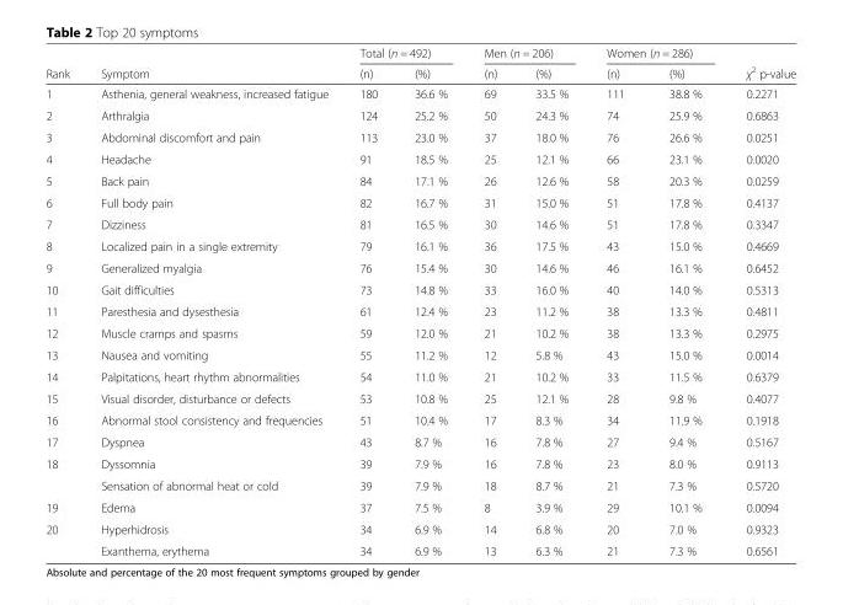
<table><thead><tr><td rowspan="2">Rank</td><td rowspan="2">Symptom</td><td colspan="2">Total (n = 492)</td><td colspan="2">Men (n = 206)</td><td colspan="2">Women (n = 286)</td><td rowspan="2">χ<sup>2</sup> p-value</td></tr><tr><td>(n)</td><td>(%)</td><td>(n)</td><td>(%)</td><td>(n)</td><td>(%)</td></tr></thead><tbody><tr><td>1</td><td>Asthenia, general weakness, increased fatigue</td><td>180</td><td>36.6 %</td><td>69</td><td>33.5 %</td><td>111</td><td>38.8 %</td><td>0.2271</td></tr><tr><td>2</td><td>Arthralgia</td><td>124</td><td>25.2 %</td><td>50</td><td>24.3 %</td><td>74</td><td>25.9 %</td><td>0.6863</td></tr><tr><td>3</td><td>Abdominal discomfort and pain</td><td>113</td><td>23.0 %</td><td>37</td><td>18.0 %</td><td>76</td><td>26.6 %</td><td>0.0251</td></tr><tr><td>4</td><td>Headache</td><td>91</td><td>18.5 %</td><td>25</td><td>12.1 %</td><td>66</td><td>23.1 %</td><td>0.0020</td></tr><tr><td>5</td><td>Back pain</td><td>84</td><td>17.1 %</td><td>26</td><td>12.6 %</td><td>58</td><td>20.3 %</td><td>0.0259</td></tr><tr><td>6</td><td>Full body pain</td><td>82</td><td>16.7 %</td><td>31</td><td>15.0 %</td><td>51</td><td>17.8 %</td><td>0.4137</td></tr><tr><td>7</td><td>Dizziness</td><td>81</td><td>16.5 %</td><td>30</td><td>14.6 %</td><td>51</td><td>17.8 %</td><td>0.3347</td></tr><tr><td>8</td><td>Localized pain in a single extremity</td><td>79</td><td>16.1 %</td><td>36</td><td>17.5 %</td><td>43</td><td>15.0 %</td><td>0.4669</td></tr><tr><td>9</td><td>Generalized myalgia</td><td>76</td><td>15.4 %</td><td>30</td><td>14.6 %</td><td>46</td><td>16.1 %</td><td>0.6452</td></tr><tr><td>10</td><td>Gait difficulties</td><td>73</td><td>14.8 %</td><td>33</td><td>16.0 %</td><td>40</td><td>14.0 %</td><td>0.5313</td></tr><tr><td>11</td><td>Paresthesia and dysesthesia</td><td>61</td><td>12.4 %</td><td>23</td><td>11.2 %</td><td>38</td><td>13.3 %</td><td>0.4811</td></tr><tr><td>12</td><td>Muscle cramps and spasms</td><td>59</td><td>12.0 %</td><td>21</td><td>10.2 %</td><td>38</td><td>13.3 %</td><td>0.2975</td></tr><tr><td>13</td><td>Nausea and vomiting</td><td>55</td><td>11.2 %</td><td>12</td><td>5.8 %</td><td>43</td><td>15.0 %</td><td>0.0014</td></tr><tr><td>14</td><td>Palpitations, heart rhythm abnormalities</td><td>54</td><td>11.0 %</td><td>21</td><td>10.2 %</td><td>33</td><td>11.5 %</td><td>0.6379</td></tr><tr><td>15</td><td>Visual disorder, disturbance or defects</td><td>53</td><td>10.8 %</td><td>25</td><td>12.1 %</td><td>28</td><td>9.8 %</td><td>0.4077</td></tr><tr><td>16</td><td>Abnormal stool consistency and frequencies</td><td>51</td><td>10.4 %</td><td>17</td><td>8.3 %</td><td>34</td><td>11.9 %</td><td>0.1918</td></tr><tr><td>17</td><td>Dyspnea</td><td>43</td><td>8.7 %</td><td>16</td><td>7.8 %</td><td>27</td><td>9.4 %</td><td>0.5167</td></tr><tr><td rowspan="2">18</td><td>Dyssomnia</td><td>39</td><td>7.9 %</td><td>16</td><td>7.8 %</td><td>23</td><td>8.0 %</td><td>0.9113</td></tr><tr><td>Sensation of abnormal heat or cold</td><td>39</td><td>7.9 %</td><td>18</td><td>8.7 %</td><td>21</td><td>7.3 %</td><td>0.5720</td></tr><tr><td>19</td><td>Edema</td><td>37</td><td>7.5 %</td><td>8</td><td>3.9 %</td><td>29</td><td>10.1 %</td><td>0.0094</td></tr><tr><td rowspan="2">20</td><td>Hyperhidrosis</td><td>34</td><td>6.9 %</td><td>14</td><td>6.8 %</td><td>20</td><td>7.0 %</td><td>0.9323</td></tr><tr><td>Exanthema, erythema</td><td>34</td><td>6.9 %</td><td>13</td><td>6.3 %</td><td>21</td><td>7.3 %</td><td>0.6561</td></tr></tbody></table>